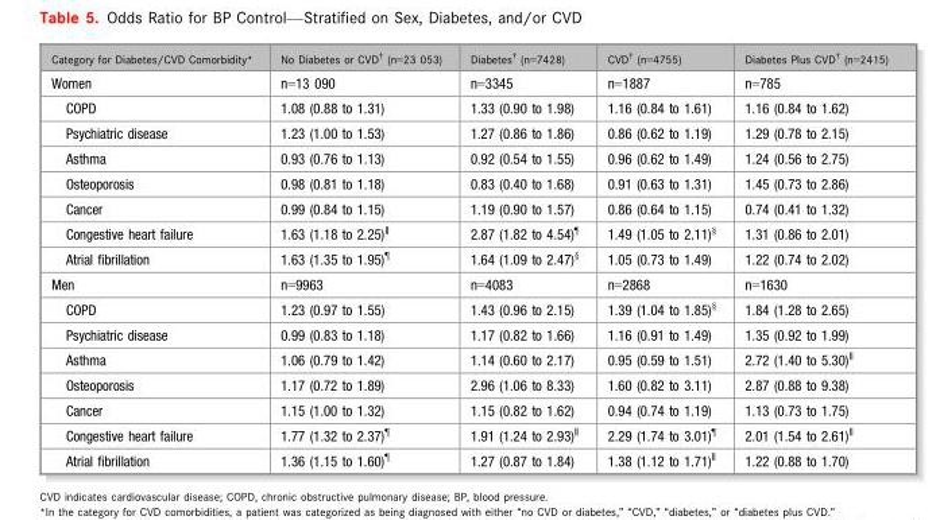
<table><thead><tr><td>Category for Diabetes/CVD Comorbidity*</td><td>No Diabetes or CVD† (n=23 053)</td><td>Diabetes† (n=7428)</td><td>CVD† (n=4755)</td><td>Diabetes Plus CVD† (n=2415)</td></tr></thead><tbody><tr><td>Women</td><td>n=13 090</td><td>n=3345</td><td>n=1887</td><td>n=785</td></tr><tr><td>COPD</td><td>1.08 (0.88 to 1.31)</td><td>1.33 (0.90 to 1.98)</td><td>1.16 (0.84 to 1.61)</td><td>1.16 (0.84 to 1.62)</td></tr><tr><td>Psychiatric disease</td><td>1.23 (1.00 to 1.53)</td><td>1.27 (0.86 to 1.86)</td><td>0.86 (0.62 to 1.19)</td><td>1.29 (0.78 to 2.15)</td></tr><tr><td>Asthma</td><td>0.93 (0.76 to 1.13)</td><td>0.92 (0.54 to 1.55)</td><td>0.96 (0.62 to 1.49)</td><td>1.24 (0.56 to 2.75)</td></tr><tr><td>Osteoporosis</td><td>0.98 (0.81 to 1.18)</td><td>0.83 (0.40 to 1.68)</td><td>0.91 (0.63 to 1.31)</td><td>1.45 (0.73 to 2.86)</td></tr><tr><td>Cancer</td><td>0.99 (0.84 to 1.15)</td><td>1.19 (0.90 to 1.57)</td><td>0.86 (0.64 to 1.15)</td><td>0.74 (0.41 to 1.32)</td></tr><tr><td>Congestive heart failure</td><td>1.63 (1.18 to 2.25)‖</td><td>2.87 (1.82 to 4.54)¶</td><td>1.49 (1.05 to 2.11)§</td><td>1.31 (0.86 to 2.01)</td></tr><tr><td>Atrial fibrillation</td><td>1.63 (1.35 to 1.95)¶</td><td>1.64 (1.09 to 2.47)§</td><td>1.05 (0.73 to 1.49)</td><td>1.22 (0.74 to 2.02)</td></tr><tr><td>Men</td><td>n=9963</td><td>n=4083</td><td>n=2868</td><td>n=1630</td></tr><tr><td>COPD</td><td>1.23 (0.97 to 1.55)</td><td>1.43 (0.96 to 2.15)</td><td>1.39 (1.04 to 1.85)§</td><td>1.84 (1.28 to 2.65)</td></tr><tr><td>Psychiatric disease</td><td>0.99 (0.83 to 1.18)</td><td>1.17 (0.82 to 1.66)</td><td>1.16 (0.91 to 1.49)</td><td>1.35 (0.92 to 1.99)</td></tr><tr><td>Asthma</td><td>1.06 (0.79 to 1.42)</td><td>1.14 (0.60 to 2.17)</td><td>0.95 (0.59 to 1.51)</td><td>2.72 (1.40 to 5.30)‖</td></tr><tr><td>Osteoporosis</td><td>1.17 (0.72 to 1.89)</td><td>2.96 (1.06 to 8.33)</td><td>1.60 (0.82 to 3.11)</td><td>2.87 (0.88 to 9.38)</td></tr><tr><td>Cancer</td><td>1.15 (1.00 to 1.32)</td><td>1.15 (0.82 to 1.62)</td><td>0.94 (0.74 to 1.19)</td><td>1.13 (0.73 to 1.75)</td></tr><tr><td>Congestive heart failure</td><td>1.77 (1.32 to 2.37)¶</td><td>1.91 (1.24 to 2.93)‖</td><td>2.29 (1.74 to 3.01)¶</td><td>2.01 (1.54 to 2.61)‖</td></tr><tr><td>Atrial fibrillation</td><td>1.36 (1.15 to 1.60)¶</td><td>1.27 (0.87 to 1.84)</td><td>1.38 (1.12 to 1.71)‖</td><td>1.22 (0.88 to 1.70)</td></tr></tbody></table>